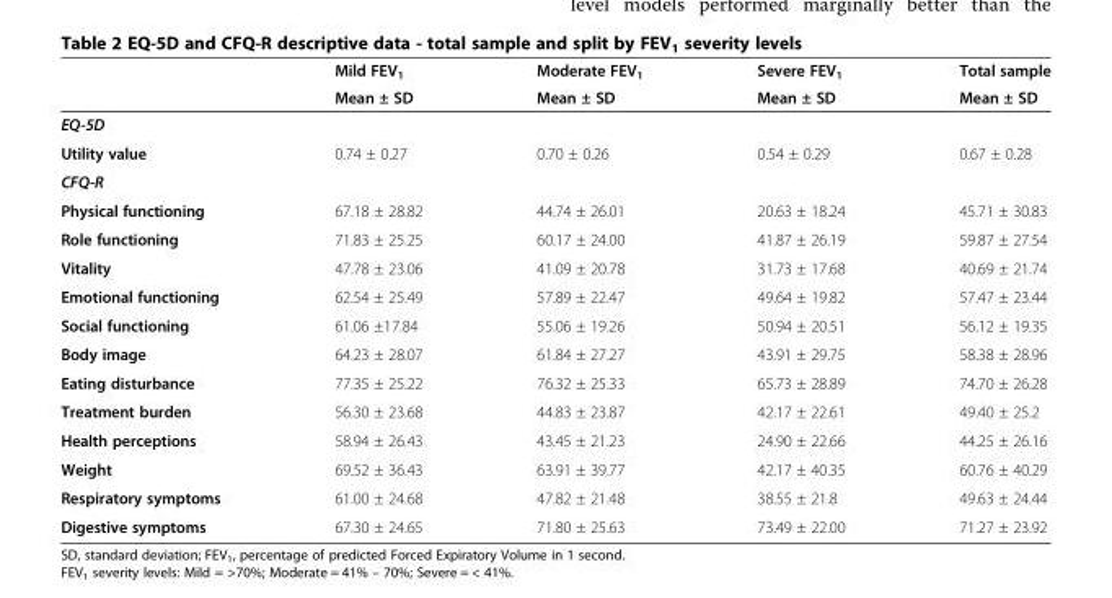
<table><thead><tr><td rowspan="2"></td><td rowspan="2">Mild FEV<sub>1</sub> Mean ± SD</td><td rowspan="2">Moderate FEV<sub>1</sub> Mean ± SD</td><td rowspan="2">Severe FEV<sub>1</sub> Mean ± SD</td><td rowspan="2">Total sample Mean ± SD</td></tr><tr></tr></thead><tbody><tr><td colspan="5">EQ-5D</td></tr><tr><td>Utility value</td><td>0.74 ± 0.27</td><td>0.70 ± 0.26</td><td>0.54 ± 0.29</td><td>0.67 ± 0.28</td></tr><tr><td colspan="5">CFQ-R</td></tr><tr><td>Physical functioning</td><td>67.18 ± 28.82</td><td>44.74 ± 26.01</td><td>20.63 ± 18.24</td><td>45.71 ± 30.83</td></tr><tr><td>Role functioning</td><td>71.83 ± 25.25</td><td>60.17 ± 24.00</td><td>41.87 ± 26.19</td><td>59.87 ± 27.54</td></tr><tr><td>Vitality</td><td>47.78 ± 23.06</td><td>41.09 ± 20.78</td><td>31.73 ± 17.68</td><td>40.69 ± 21.74</td></tr><tr><td>Emotional functioning</td><td>62.54 ± 25.49</td><td>57.89 ± 22.47</td><td>49.64 ± 19.82</td><td>57.47 ± 23.44</td></tr><tr><td>Social functioning</td><td>61.06 ±17.84</td><td>55.06 ± 19.26</td><td>50.94 ± 20.51</td><td>56.12 ± 19.35</td></tr><tr><td>Body image</td><td>64.23 ± 28.07</td><td>61.84 ± 27.27</td><td>43.91 ± 29.75</td><td>58.38 ± 28.96</td></tr><tr><td>Eating disturbance</td><td>77.35 ± 25.22</td><td>76.32 ± 25.33</td><td>65.73 ± 28.89</td><td>74.70 ± 26.28</td></tr><tr><td>Treatment burden</td><td>56.30 ± 23.68</td><td>44.83 ± 23.87</td><td>42.17 ± 22.61</td><td>49.40 ± 25.2</td></tr><tr><td>Health perceptions</td><td>58.94 ± 26.43</td><td>43.45 ± 21.23</td><td>24.90 ± 22.66</td><td>44.25 ± 26.16</td></tr><tr><td>Weight</td><td>69.52 ± 36.43</td><td>63.91 ± 39.77</td><td>42.17 ± 40.35</td><td>60.76 ± 40.29</td></tr><tr><td>Respiratory symptoms</td><td>61.00 ± 24.68</td><td>47.82 ± 21.48</td><td>38.55 ± 21.8</td><td>49.63 ± 24.44</td></tr><tr><td>Digestive symptoms</td><td>67.30 ± 24.65</td><td>71.80 ± 25.63</td><td>73.49 ± 22.00</td><td>71.27 ± 23.92</td></tr></tbody></table>